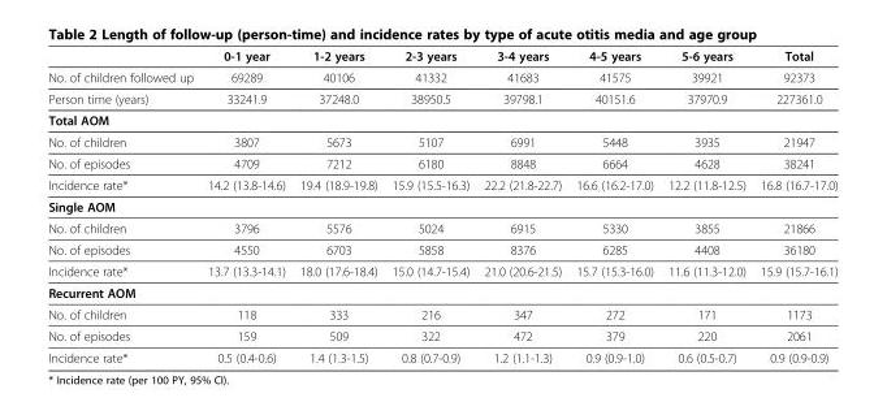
<table><thead><tr><td></td><td>0-1 year</td><td>1-2 years</td><td>2-3 years</td><td>3-4 years</td><td>4-5 years</td><td>5-6 years</td><td>Total</td></tr></thead><tbody><tr><td>No. of children followed up</td><td>69289</td><td>40106</td><td>41332</td><td>41683</td><td>41575</td><td>39921</td><td>92373</td></tr><tr><td>Person time (years)</td><td>33241.9</td><td>37248.0</td><td>38950.5</td><td>39798.1</td><td>40151.6</td><td>37970.9</td><td>227361.0</td></tr><tr><td colspan="8">Total AOM</td></tr><tr><td>No. of children</td><td>3807</td><td>5673</td><td>5107</td><td>6991</td><td>5448</td><td>3935</td><td>21947</td></tr><tr><td>No. of episodes</td><td>4709</td><td>7212</td><td>6180</td><td>8848</td><td>6664</td><td>4628</td><td>38241</td></tr><tr><td>Incidence rate*</td><td>14.2 (13.8-14.6)</td><td>19.4 (18.9-19.8)</td><td>15.9 (15.5-16.3)</td><td>22.2 (21.8-22.7)</td><td>16.6 (16.2-17.0)</td><td>12.2 (11.8-12.5)</td><td>16.8 (16.7-17.0)</td></tr><tr><td colspan="8">Single AOM</td></tr><tr><td>No. of children</td><td>3796</td><td>5576</td><td>5024</td><td>6915</td><td>5330</td><td>3855</td><td>21866</td></tr><tr><td>No. of episodes</td><td>4550</td><td>6703</td><td>5858</td><td>8376</td><td>6285</td><td>4408</td><td>36180</td></tr><tr><td>Incidence rate*</td><td>13.7 (13.3-14.1)</td><td>18.0 (17.6-18.4)</td><td>15.0 (14.7-15.4)</td><td>21.0 (20.6-21.5)</td><td>15.7 (15.3-16.0)</td><td>11.6 (11.3-12.0)</td><td>15.9 (15.7-16.1)</td></tr><tr><td colspan="8">Recurrent AOM</td></tr><tr><td>No. of children</td><td>118</td><td>333</td><td>216</td><td>347</td><td>272</td><td>171</td><td>1173</td></tr><tr><td>No. of episodes</td><td>159</td><td>509</td><td>322</td><td>472</td><td>379</td><td>220</td><td>2061</td></tr><tr><td>Incidence rate*</td><td>0.5 (0.4-0.6)</td><td>1.4 (1.3-1.5)</td><td>0.8 (0.7-0.9)</td><td>1.2 (1.1-1.3)</td><td>0.9 (0.9-1.0)</td><td>0.6 (0.5-0.7)</td><td>0.9 (0.9-0.9)</td></tr></tbody></table>